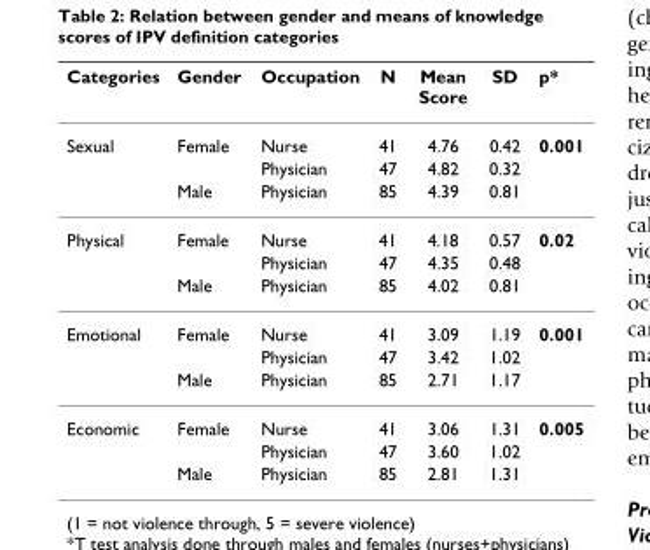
<table><thead><tr><td>Categories</td><td>Gender</td><td>Occupation</td><td>N</td><td>Mean Score</td><td>SD</td><td>p*</td></tr></thead><tbody><tr><td rowspan="3">Sexual</td><td>Female</td><td>Nurse</td><td>41</td><td>4.76</td><td>0.42</td><td>0.001</td></tr><tr><td></td><td>Physician</td><td>47</td><td>4.82</td><td>0.32</td><td></td></tr><tr><td>Male</td><td>Physician</td><td>85</td><td>4.39</td><td>0.81</td><td></td></tr><tr><td rowspan="3">Physical</td><td>Female</td><td>Nurse</td><td>41</td><td>4.18</td><td>0.57</td><td>0.02</td></tr><tr><td></td><td>Physician</td><td>47</td><td>4.35</td><td>0.48</td><td></td></tr><tr><td>Male</td><td>Physician</td><td>85</td><td>4.02</td><td>0.81</td><td></td></tr><tr><td rowspan="3">Emotional</td><td>Female</td><td>Nurse</td><td>41</td><td>3.09</td><td>1.19</td><td>0.001</td></tr><tr><td></td><td>Physician</td><td>47</td><td>3.42</td><td>1.02</td><td></td></tr><tr><td>Male</td><td>Physician</td><td>85</td><td>2.71</td><td>1.17</td><td></td></tr><tr><td rowspan="3">Economic</td><td>Female</td><td>Nurse</td><td>41</td><td>3.06</td><td>1.31</td><td>0.005</td></tr><tr><td></td><td>Physician</td><td>47</td><td>3.60</td><td>1.02</td><td></td></tr><tr><td>Male</td><td>Physician</td><td>85</td><td>2.81</td><td>1.31</td><td></td></tr></tbody></table>